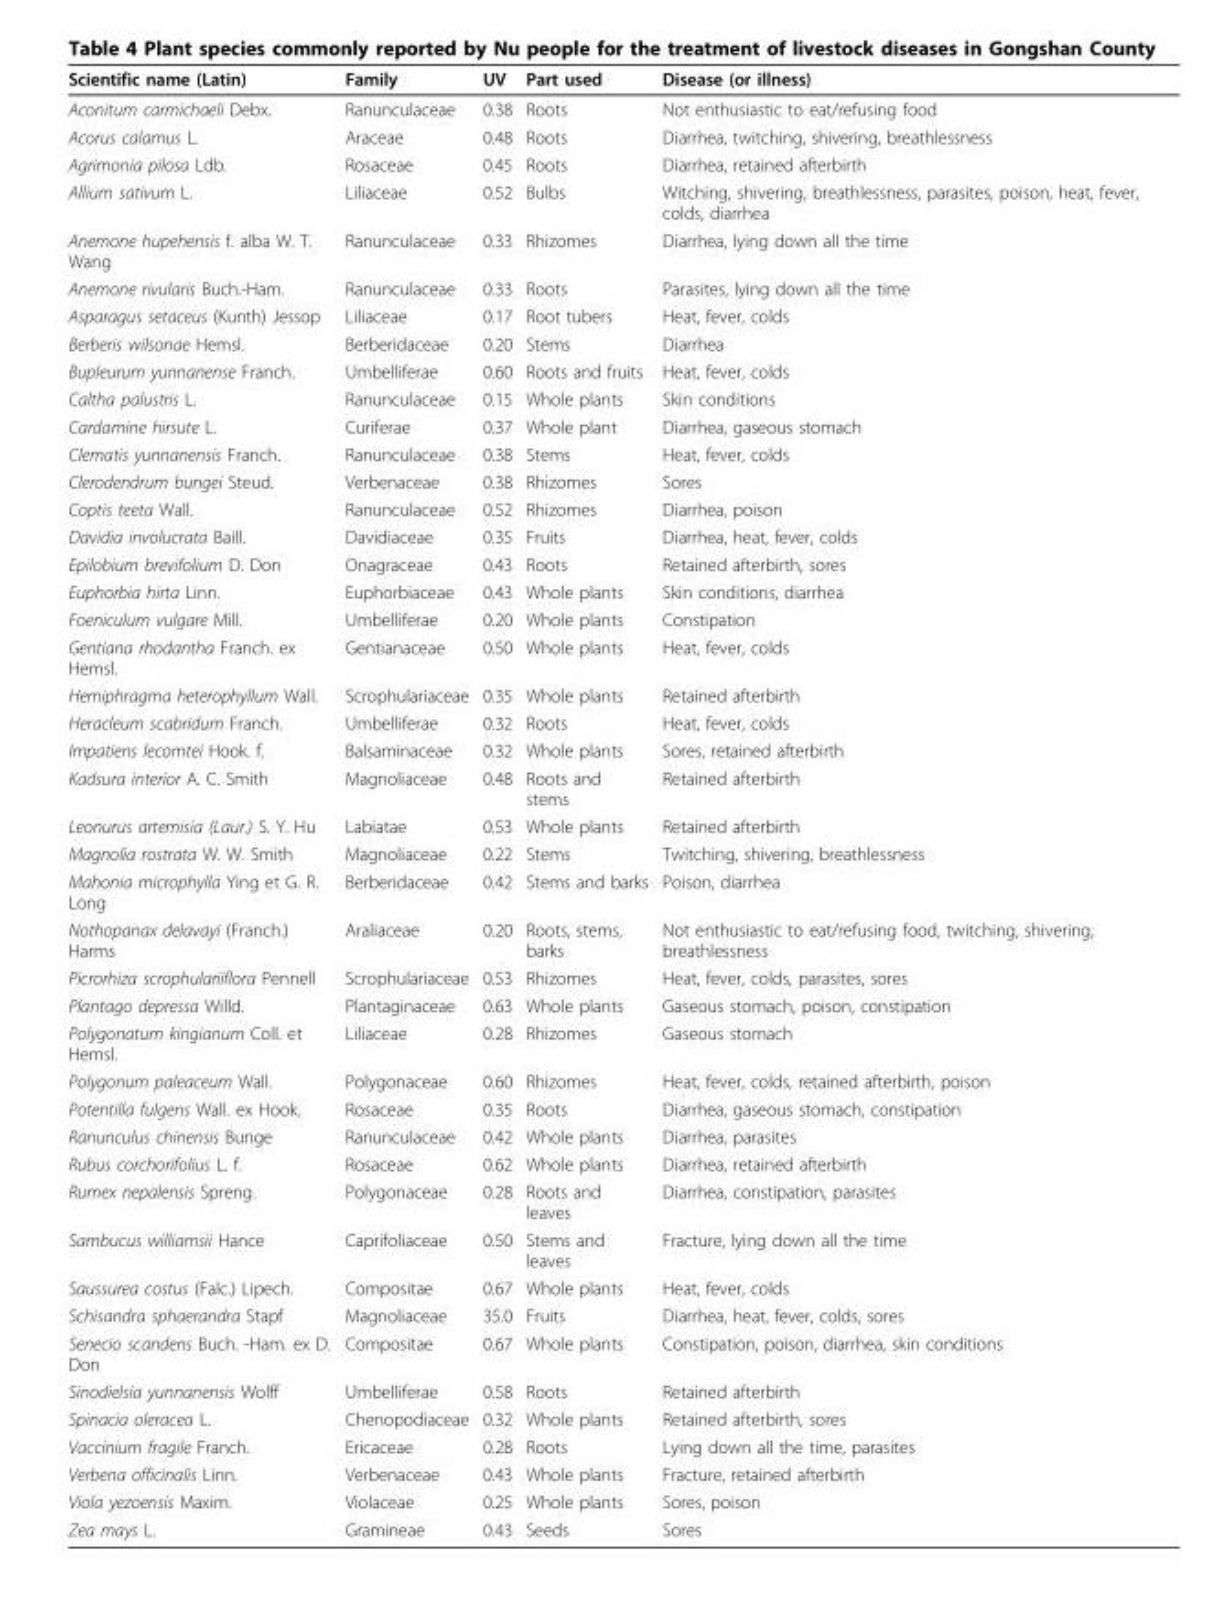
<table><thead><tr><td>Scientific name (Latin)</td><td>Family</td><td>UV</td><td>Part used</td><td>Disease (or illness)</td></tr></thead><tbody><tr><td>Aconitum carmichaeli Debx.</td><td>Ranunculaceae</td><td>0.38</td><td>Roots</td><td>Not enthusiastic to eat/refusing food</td></tr><tr><td>Acorus calamus L.</td><td>Araceae</td><td>0.48</td><td>Roots</td><td>Diarrhea, twitching, shivering, breathlessness</td></tr><tr><td>Agrimonia pilosa Ldb.</td><td>Rosaceae</td><td>0.45</td><td>Roots</td><td>Diarrhea, retained afterbirth</td></tr><tr><td>Allium sativum L.</td><td>Liliaceae</td><td>0.52</td><td>Bulbs</td><td>Witching, shivering, breathlessness, parasites, poison, heat, fever, colds, diarrhea</td></tr><tr><td>Anemone hupehensis f. alba W. T. Wang</td><td>Ranunculaceae</td><td>0.33</td><td>Rhizomes</td><td>Diarrhea, lying down all the time</td></tr><tr><td>Anemone rivularis Buch.-Ham.</td><td>Ranunculaceae</td><td>0.33</td><td>Roots</td><td>Parasites, lying down all the time</td></tr><tr><td>Asparagus setaceus (Kunth) Jessop</td><td>Liliaceae</td><td>0.17</td><td>Root tubers</td><td>Heat, fever, colds</td></tr><tr><td>Berberis wilsonae Hemsl.</td><td>Berberidaceae</td><td>0.20</td><td>Stems</td><td>Diarrhea</td></tr><tr><td>Bupleurum yunnanense Franch.</td><td>Umbelliferae</td><td>0.60</td><td>Roots and fruits</td><td>Heat, fever, colds</td></tr><tr><td>Caltha palustris L.</td><td>Ranunculaceae</td><td>0.15</td><td>Whole plants</td><td>Skin conditions</td></tr><tr><td>Cardamine hirsute L.</td><td>Curiferae</td><td>0.37</td><td>Whole plant</td><td>Diarrhea, gaseous stomach</td></tr><tr><td>Clematis yunnanensis Franch.</td><td>Ranunculaceae</td><td>0.38</td><td>Stems</td><td>Heat, fever, colds</td></tr><tr><td>Clerodendrum bungei Steud.</td><td>Verbenaceae</td><td>0.38</td><td>Rhizomes</td><td>Sores</td></tr><tr><td>Coptis teeta Wall.</td><td>Ranunculaceae</td><td>0.52</td><td>Rhizomes</td><td>Diarrhea, poison</td></tr><tr><td>Davidia involucrata Baill.</td><td>Davidiaceae</td><td>0.35</td><td>Fruits</td><td>Diarrhea, heat, fever, colds</td></tr><tr><td>Epilobium brevifolium D. Don</td><td>Onagraceae</td><td>0.43</td><td>Roots</td><td>Retained afterbirth, sores</td></tr><tr><td>Euphorbia hirta Linn.</td><td>Euphorbiaceae</td><td>0.43</td><td>Whole plants</td><td>Skin conditions, diarrhea</td></tr><tr><td>Foeniculum vulgare Mill.</td><td>Umbelliferae</td><td>0.20</td><td>Whole plants</td><td>Constipation</td></tr><tr><td>Gentiana rhodantha Franch. ex Hemsl.</td><td>Gentianaceae</td><td>0.50</td><td>Whole plants</td><td>Heat, fever, colds</td></tr><tr><td>Hemiphragma heterophyllum Wall.</td><td>Scrophulariaceae</td><td>0.35</td><td>Whole plants</td><td>Retained afterbirth</td></tr><tr><td>Heracleum scabridum Franch.</td><td>Umbelliferae</td><td>0.32</td><td>Roots</td><td>Heat, fever, colds</td></tr><tr><td>Impatiens lecomtei Hook. f.</td><td>Balsaminaceae</td><td>0.32</td><td>Whole plants</td><td>Sores, retained afterbirth</td></tr><tr><td>Kadsura interior A. C. Smith</td><td>Magnoliaceae</td><td>0.48</td><td>Roots and stems</td><td>Retained afterbirth</td></tr><tr><td>Leonurus artemisia (Laur.) S. Y. Hu</td><td>Labiatae</td><td>0.53</td><td>Whole plants</td><td>Retained afterbirth</td></tr><tr><td>Magnolia rostrata W. W. Smith</td><td>Magnoliaceae</td><td>0.22</td><td>Stems</td><td>Twitching, shivering, breathlessness</td></tr><tr><td>Mahonia microphylla Ying et G. R. Long</td><td>Berberidaceae</td><td>0.42</td><td>Stems and barks</td><td>Poison, diarrhea</td></tr><tr><td>Nothopanax delavayi (Franch.) Harms</td><td>Araliaceae</td><td>0.20</td><td>Roots, stems, barks</td><td>Not enthusiastic to eat/refusing food, twitching, shivering, breathlessness</td></tr><tr><td>Picrorhiza scrophulariiflora Pennell</td><td>Scrophulariaceae</td><td>0.53</td><td>Rhizomes</td><td>Heat, fever, colds, parasites, sores</td></tr><tr><td>Plantago depressa Willd.</td><td>Plantaginaceae</td><td>0.63</td><td>Whole plants</td><td>Gaseous stomach, poison, constipation</td></tr><tr><td>Polygonatum kingianum Coll. et Hemsl.</td><td>Liliaceae</td><td>0.28</td><td>Rhizomes</td><td>Gaseous stomach</td></tr><tr><td>Polygonum paleaceum Wall.</td><td>Polygonaceae</td><td>0.60</td><td>Rhizomes</td><td>Heat, fever, colds, retained afterbirth, poison</td></tr><tr><td>Potentilla fulgens Wall. ex Hook.</td><td>Rosaceae</td><td>0.35</td><td>Roots</td><td>Diarrhea, gaseous stomach, constipation</td></tr><tr><td>Ranunculus chinensis Bunge</td><td>Ranunculaceae</td><td>0.42</td><td>Whole plants</td><td>Diarrhea, parasites</td></tr><tr><td>Rubus corchorifolius L. f.</td><td>Rosaceae</td><td>0.62</td><td>Whole plants</td><td>Diarrhea, retained afterbirth</td></tr><tr><td>Rumex nepalensis Spreng.</td><td>Polygonaceae</td><td>0.28</td><td>Roots and leaves</td><td>Diarrhea, constipation, parasites</td></tr><tr><td>Sambucus williamsii Hance</td><td>Caprifoliaceae</td><td>0.50</td><td>Stems and leaves</td><td>Fracture, lying down all the time</td></tr><tr><td>Saussurea costus (Falc.) Lipech.</td><td>Compositae</td><td>0.67</td><td>Whole plants</td><td>Heat, fever, colds</td></tr><tr><td>Schisandra sphaerandra Stapf</td><td>Magnoliaceae</td><td>35.0</td><td>Fruits</td><td>Diarrhea, heat, fever, colds, sores</td></tr><tr><td>Senecio scandens Buch. -Ham. ex D. Don</td><td>Compositae</td><td>0.67</td><td>Whole plants</td><td>Constipation, poison, diarrhea, skin conditions</td></tr><tr><td>Sinodielsia yunnanensis Wolff</td><td>Umbelliferae</td><td>0.58</td><td>Roots</td><td>Retained afterbirth</td></tr><tr><td>Spinacia oleracea L.</td><td>Chenopodiaceae</td><td>0.32</td><td>Whole plants</td><td>Retained afterbirth, sores</td></tr><tr><td>Vaccinium fragile Franch.</td><td>Ericaceae</td><td>0.28</td><td>Roots</td><td>Lying down all the time, parasites</td></tr><tr><td>Verbena officinalis Linn.</td><td>Verbenaceae</td><td>0.43</td><td>Whole plants</td><td>Fracture, retained afterbirth</td></tr><tr><td>Viola yezoensis Maxim.</td><td>Violaceae</td><td>0.25</td><td>Whole plants</td><td>Sores, poison</td></tr><tr><td>Zea mays L.</td><td>Gramineae</td><td>0.43</td><td>Seeds</td><td>Sores</td></tr></tbody></table>